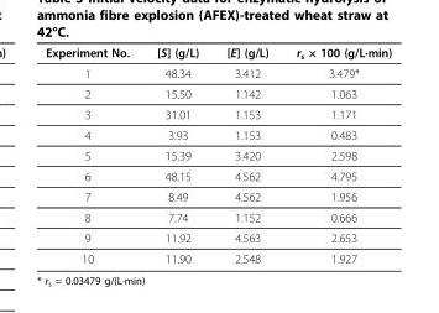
<table><thead><tr><td>Experiment No.</td><td>[S] (g/L)</td><td>[E] (g/L)</td><td>r<sub>s</sub> × 100 (g/L·min)</td></tr></thead><tbody><tr><td>1</td><td>48.34</td><td>3.412</td><td>3.479*</td></tr><tr><td>2</td><td>15.50</td><td>1.142</td><td>1.063</td></tr><tr><td>3</td><td>31.01</td><td>1.153</td><td>1.171</td></tr><tr><td>4</td><td>3.93</td><td>1.153</td><td>0.483</td></tr><tr><td>5</td><td>15.39</td><td>3.420</td><td>2.598</td></tr><tr><td>6</td><td>48.15</td><td>4.562</td><td>4.795</td></tr><tr><td>7</td><td>8.49</td><td>4.562</td><td>1.956</td></tr><tr><td>8</td><td>7.74</td><td>1.152</td><td>0.666</td></tr><tr><td>9</td><td>11.92</td><td>4.563</td><td>2.653</td></tr><tr><td>10</td><td>11.90</td><td>2.548</td><td>1.927</td></tr></tbody></table>